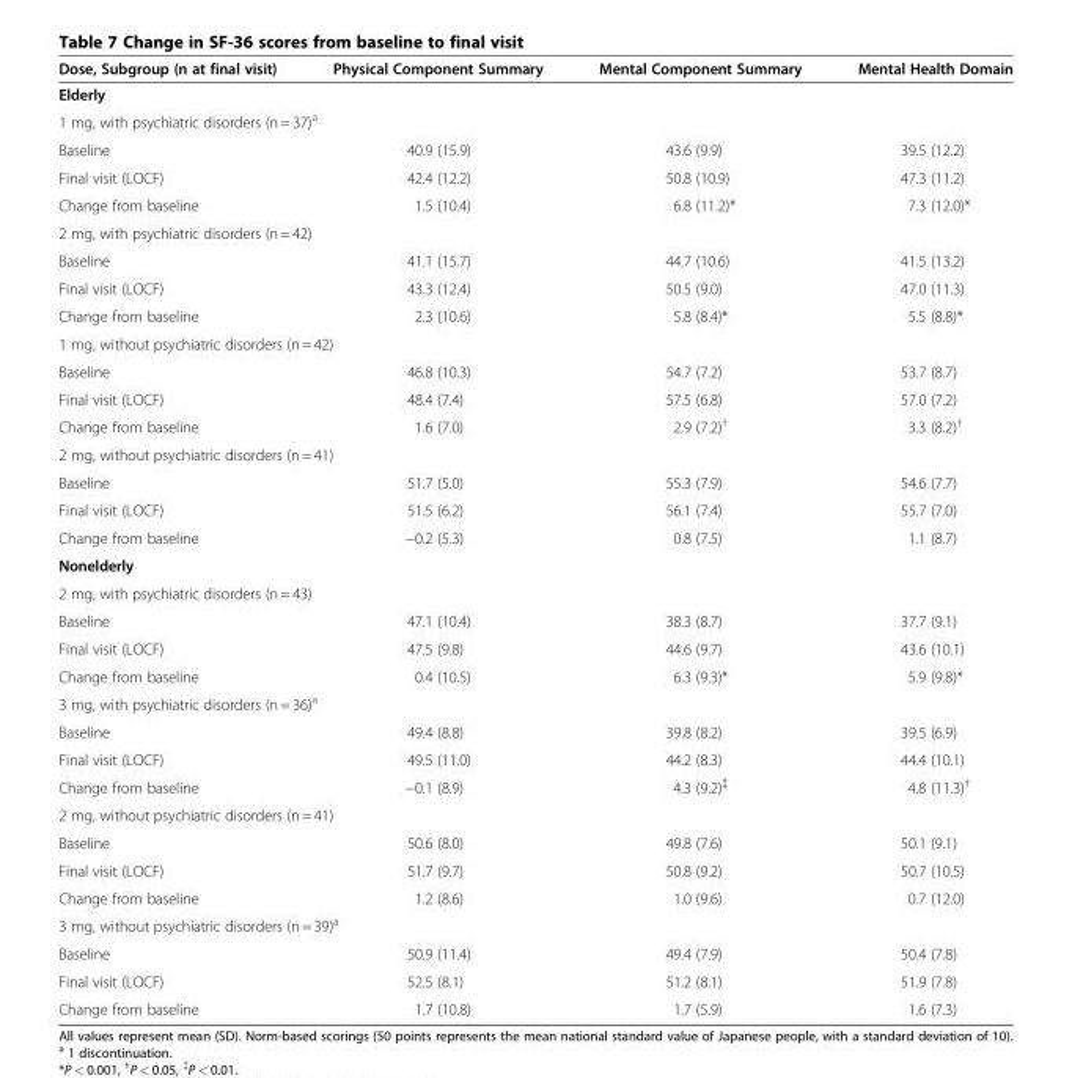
<table><thead><tr><td>Dose, Subgroup (n at final visit)</td><td>Physical Component Summary</td><td>Mental Component Summary</td><td>Mental Health Domain</td></tr></thead><tbody><tr><td colspan="4">Elderly</td></tr><tr><td colspan="4">1 mg, with psychiatric disorders (n = 37)<sup>a</sup></td></tr><tr><td>Baseline</td><td>40.9 (15.9)</td><td>43.6 (9.9)</td><td>39.5 (12.2)</td></tr><tr><td>Final visit (LOCF)</td><td>42.4 (12.2)</td><td>50.8 (10.9)</td><td>47.3 (11.2)</td></tr><tr><td>Change from baseline</td><td>1.5 (10.4)</td><td>6.8 (11.2)*</td><td>7.3 (12.0)*</td></tr><tr><td colspan="4">2 mg, with psychiatric disorders (n = 42)</td></tr><tr><td>Baseline</td><td>41.1 (15.7)</td><td>44.7 (10.6)</td><td>41.5 (13.2)</td></tr><tr><td>Final visit (LOCF)</td><td>43.3 (12.4)</td><td>50.5 (9.0)</td><td>47.0 (11.3)</td></tr><tr><td>Change from baseline</td><td>2.3 (10.6)</td><td>5.8 (8.4)*</td><td>5.5 (8.8)*</td></tr><tr><td colspan="4">1 mg, without psychiatric disorders (n = 42)</td></tr><tr><td>Baseline</td><td>46.8 (10.3)</td><td>54.7 (7.2)</td><td>53.7 (8.7)</td></tr><tr><td>Final visit (LOCF)</td><td>48.4 (7.4)</td><td>57.5 (6.8)</td><td>57.0 (7.2)</td></tr><tr><td>Change from baseline</td><td>1.6 (7.0)</td><td>2.9 (7.2)<sup>†</sup></td><td>3.3 (8.2)<sup>†</sup></td></tr><tr><td colspan="4">2 mg, without psychiatric disorders (n = 41)</td></tr><tr><td>Baseline</td><td>51.7 (5.0)</td><td>55.3 (7.9)</td><td>54.6 (7.7)</td></tr><tr><td>Final visit (LOCF)</td><td>51.5 (6.2)</td><td>56.1 (7.4)</td><td>55.7 (7.0)</td></tr><tr><td>Change from baseline</td><td>−0.2 (5.3)</td><td>0.8 (7.5)</td><td>1.1 (8.7)</td></tr><tr><td colspan="4">Nonelderly</td></tr><tr><td colspan="4">2 mg, with psychiatric disorders (n = 43)</td></tr><tr><td>Baseline</td><td>47.1 (10.4)</td><td>38.3 (8.7)</td><td>37.7 (9.1)</td></tr><tr><td>Final visit (LOCF)</td><td>47.5 (9.8)</td><td>44.6 (9.7)</td><td>43.6 (10.1)</td></tr><tr><td>Change from baseline</td><td>0.4 (10.5)</td><td>6.3 (9.3)*</td><td>5.9 (9.8)*</td></tr><tr><td colspan="4">3 mg, with psychiatric disorders (n = 36)<sup>a</sup></td></tr><tr><td>Baseline</td><td>49.4 (8.8)</td><td>39.8 (8.2)</td><td>39.5 (6.9)</td></tr><tr><td>Final visit (LOCF)</td><td>49.5 (11.0)</td><td>44.2 (8.3)</td><td>44.4 (10.1)</td></tr><tr><td>Change from baseline</td><td>−0.1 (8.9)</td><td>4.3 (9.2)<sup>‡</sup></td><td>4.8 (11.3)<sup>†</sup></td></tr><tr><td colspan="4">2 mg, without psychiatric disorders (n = 41)</td></tr><tr><td>Baseline</td><td>50.6 (8.0)</td><td>49.8 (7.6)</td><td>50.1 (9.1)</td></tr><tr><td>Final visit (LOCF)</td><td>51.7 (9.7)</td><td>50.8 (9.2)</td><td>50.7 (10.5)</td></tr><tr><td>Change from baseline</td><td>1.2 (8.6)</td><td>1.0 (9.6)</td><td>0.7 (12.0)</td></tr><tr><td colspan="4">3 mg, without psychiatric disorders (n = 39)<sup>a</sup></td></tr><tr><td>Baseline</td><td>50.9 (11.4)</td><td>49.4 (7.9)</td><td>50.4 (7.8)</td></tr><tr><td>Final visit (LOCF)</td><td>52.5 (8.1)</td><td>51.2 (8.1)</td><td>51.9 (7.8)</td></tr><tr><td>Change from baseline</td><td>1.7 (10.8)</td><td>1.7 (5.9)</td><td>1.6 (7.3)</td></tr></tbody></table>